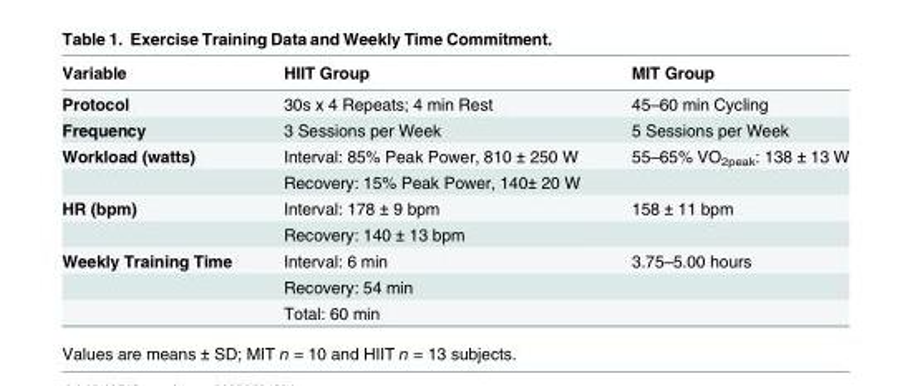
<table><thead><tr><td>Variable</td><td>HIIT Group</td><td>MIT Group</td></tr></thead><tbody><tr><td>Protocol</td><td>30s x 4 Repeats; 4 min Rest</td><td>45–60 min Cycling</td></tr><tr><td>Frequency</td><td>3 Sessions per Week</td><td>5 Sessions per Week</td></tr><tr><td rowspan="2">Workload (watts)</td><td>Interval: 85% Peak Power, 810 ± 250 W</td><td>55–65% VO<sub>2peak</sub>: 138 ± 13 W</td></tr><tr><td>Recovery: 15% Peak Power, 140± 20 W</td><td></td></tr><tr><td rowspan="2">HR (bpm)</td><td>Interval: 178 ± 9 bpm</td><td>158 ± 11 bpm</td></tr><tr><td>Recovery: 140 ± 13 bpm</td><td></td></tr><tr><td rowspan="3">Weekly Training Time</td><td>Interval: 6 min</td><td>3.75–5.00 hours</td></tr><tr><td>Recovery: 54 min</td><td></td></tr><tr><td>Total: 60 min</td><td></td></tr></tbody></table>